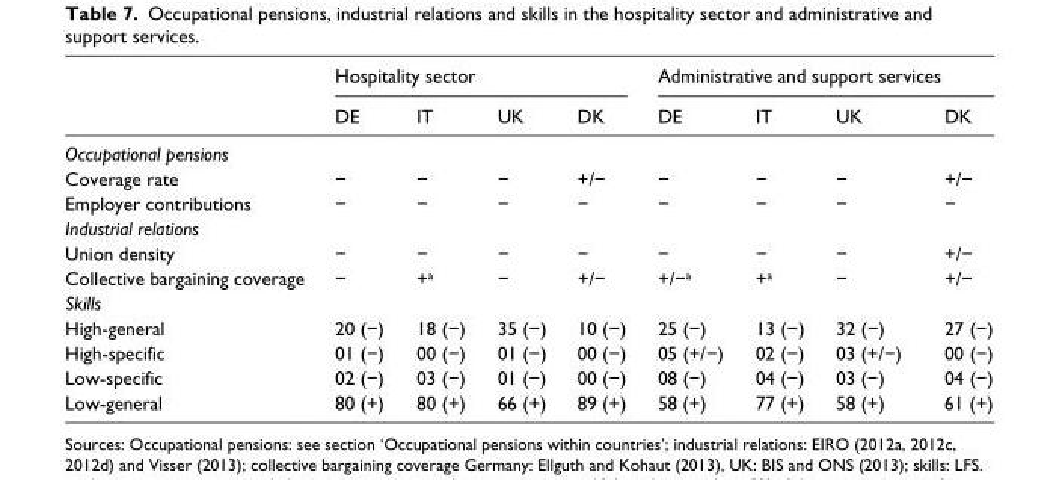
<table><thead><tr><td rowspan="2"></td><td colspan="4">Hospitality sector</td><td colspan="4">Administrative and support services</td></tr><tr><td>DE</td><td>IT</td><td>UK</td><td>DK</td><td>DE</td><td>IT</td><td>UK</td><td>DK</td></tr></thead><tbody><tr><td colspan="9">Occupational pensions</td></tr><tr><td>Coverage rate</td><td>−</td><td>−</td><td>−</td><td>+/−</td><td>−</td><td>−</td><td>−</td><td>+/−</td></tr><tr><td>Employer contributions</td><td>−</td><td>−</td><td>−</td><td>−</td><td>−</td><td>−</td><td>−</td><td>−</td></tr><tr><td colspan="9">Industrial relations</td></tr><tr><td>Union density</td><td>−</td><td>−</td><td>−</td><td>−</td><td>−</td><td>−</td><td>−</td><td>+/−</td></tr><tr><td>Collective bargaining coverage</td><td>−</td><td>+<sup>a</sup></td><td>−</td><td>+/−</td><td>+/−<sup>a</sup></td><td>+<sup>a</sup></td><td>−</td><td>+/−</td></tr><tr><td colspan="9">Skills</td></tr><tr><td>High-general</td><td>20 (−)</td><td>18 (−)</td><td>35 (−)</td><td>10 (−)</td><td>25 (−)</td><td>13 (−)</td><td>32 (−)</td><td>27 (−)</td></tr><tr><td>High-specific</td><td>01 (−)</td><td>00 (−)</td><td>01 (−)</td><td>00 (−)</td><td>05 (+/−)</td><td>02 (−)</td><td>03 (+/−)</td><td>00 (−)</td></tr><tr><td>Low-specific</td><td>02 (−)</td><td>03 (−)</td><td>01 (−)</td><td>00 (−)</td><td>08 (−)</td><td>04 (−)</td><td>03 (−)</td><td>04 (−)</td></tr><tr><td>Low-general</td><td>80 (+)</td><td>80 (+)</td><td>66 (+)</td><td>89 (+)</td><td>58 (+)</td><td>77 (+)</td><td>58 (+)</td><td>61 (+)</td></tr></tbody></table>